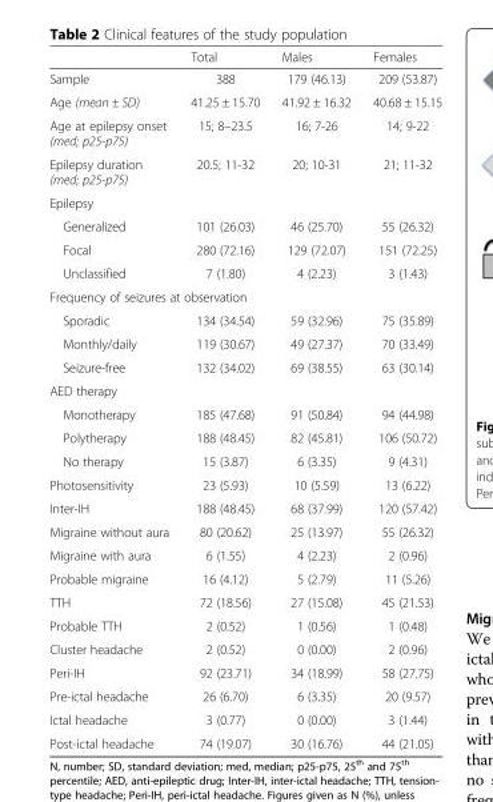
<table><thead><tr><td></td><td>Total</td><td>Males</td><td>Females</td></tr></thead><tbody><tr><td>Sample</td><td>388</td><td>179 (46.13)</td><td>209 (53.87)</td></tr><tr><td>Age (mean ± SD)</td><td>41.25 ± 15.70</td><td>41.92 ± 16.32</td><td>40.68 ± 15.15</td></tr><tr><td>Age at epilepsy onset (med; p25-p75)</td><td>15; 8–23.5</td><td>16; 7-26</td><td>14; 9-22</td></tr><tr><td>Epilepsy duration (med; p25-p75)</td><td>20.5; 11-32</td><td>20; 10-31</td><td>21; 11-32</td></tr><tr><td colspan="4">Epilepsy</td></tr><tr><td>Generalized</td><td>101 (26.03)</td><td>46 (25.70)</td><td>55 (26.32)</td></tr><tr><td>Focal</td><td>280 (72.16)</td><td>129 (72.07)</td><td>151 (72.25)</td></tr><tr><td>Unclassified</td><td>7 (1.80)</td><td>4 (2.23)</td><td>3 (1.43)</td></tr><tr><td colspan="4">Frequency of seizures at observation</td></tr><tr><td>Sporadic</td><td>134 (34.54)</td><td>59 (32.96)</td><td>75 (35.89)</td></tr><tr><td>Monthly/daily</td><td>119 (30.67)</td><td>49 (27.37)</td><td>70 (33.49)</td></tr><tr><td>Seizure-free</td><td>132 (34.02)</td><td>69 (38.55)</td><td>63 (30.14)</td></tr><tr><td colspan="4">AED therapy</td></tr><tr><td>Monotherapy</td><td>185 (47.68)</td><td>91 (50.84)</td><td>94 (44.98)</td></tr><tr><td>Polytherapy</td><td>188 (48.45)</td><td>82 (45.81)</td><td>106 (50.72)</td></tr><tr><td>No therapy</td><td>15 (3.87)</td><td>6 (3.35)</td><td>9 (4.31)</td></tr><tr><td>Photosensitivity</td><td>23 (5.93)</td><td>10 (5.59)</td><td>13 (6.22)</td></tr><tr><td>Inter-IH</td><td>188 (48.45)</td><td>68 (37.99)</td><td>120 (57.42)</td></tr><tr><td>Migraine without aura</td><td>80 (20.62)</td><td>25 (13.97)</td><td>55 (26.32)</td></tr><tr><td>Migraine with aura</td><td>6 (1.55)</td><td>4 (2.23)</td><td>2 (0.96)</td></tr><tr><td>Probable migraine</td><td>16 (4.12)</td><td>5 (2.79)</td><td>11 (5.26)</td></tr><tr><td>TTH</td><td>72 (18.56)</td><td>27 (15.08)</td><td>45 (21.53)</td></tr><tr><td>Probable TTH</td><td>2 (0.52)</td><td>1 (0.56)</td><td>1 (0.48)</td></tr><tr><td>Cluster headache</td><td>2 (0.52)</td><td>0 (0.00)</td><td>2 (0.96)</td></tr><tr><td>Peri-IH</td><td>92 (23.71)</td><td>34 (18.99)</td><td>58 (27.75)</td></tr><tr><td>Pre-ictal headache</td><td>26 (6.70)</td><td>6 (3.35)</td><td>20 (9.57)</td></tr><tr><td>Ictal headache</td><td>3 (0.77)</td><td>0 (0.00)</td><td>3 (1.44)</td></tr><tr><td>Post-ictal headache</td><td>74 (19.07)</td><td>30 (16.76)</td><td>44 (21.05)</td></tr></tbody></table>